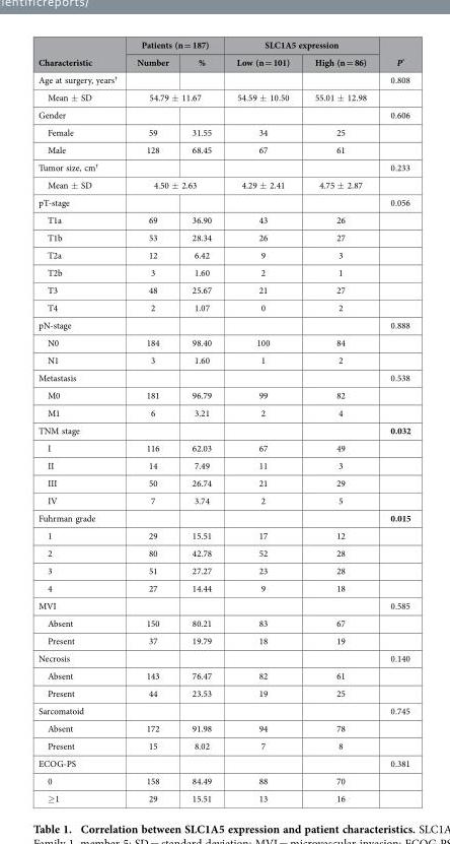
<table><thead><tr><td rowspan="2">Characteristic</td><td colspan="2">Patients (n = 187)</td><td colspan="2">SLC1A5 expression</td><td rowspan="2">P*</td></tr><tr><td>Number</td><td>%</td><td>Low (n = 101)</td><td>High (n = 86)</td></tr></thead><tbody><tr><td>Age at surgery, years†</td><td></td><td></td><td></td><td></td><td>0.808</td></tr><tr><td>Mean ± SD</td><td colspan="2">54.79 ± 11.67</td><td>54.59 ± 10.50</td><td>55.01 ± 12.98</td><td></td></tr><tr><td>Gender</td><td></td><td></td><td></td><td></td><td>0.606</td></tr><tr><td>Female</td><td>59</td><td>31.55</td><td>34</td><td>25</td><td></td></tr><tr><td>Male</td><td>128</td><td>68.45</td><td>67</td><td>61</td><td></td></tr><tr><td>Tumor size, cm†</td><td></td><td></td><td></td><td></td><td>0.233</td></tr><tr><td>Mean ± SD</td><td colspan="2">4.50 ± 2.63</td><td>4.29 ± 2.41</td><td>4.75 ± 2.87</td><td></td></tr><tr><td>pT-stage</td><td></td><td></td><td></td><td></td><td>0.056</td></tr><tr><td>T1a</td><td>69</td><td>36.90</td><td>43</td><td>26</td><td></td></tr><tr><td>T1b</td><td>53</td><td>28.34</td><td>26</td><td>27</td><td></td></tr><tr><td>T2a</td><td>12</td><td>6.42</td><td>9</td><td>3</td><td></td></tr><tr><td>T2b</td><td>3</td><td>1.60</td><td>2</td><td>1</td><td></td></tr><tr><td>T3</td><td>48</td><td>25.67</td><td>21</td><td>27</td><td></td></tr><tr><td>T4</td><td>2</td><td>1.07</td><td>0</td><td>2</td><td></td></tr><tr><td>pN-stage</td><td></td><td></td><td></td><td></td><td>0.888</td></tr><tr><td>N0</td><td>184</td><td>98.40</td><td>100</td><td>84</td><td></td></tr><tr><td>N1</td><td>3</td><td>1.60</td><td>1</td><td>2</td><td></td></tr><tr><td>Metastasis</td><td></td><td></td><td></td><td></td><td>0.538</td></tr><tr><td>M0</td><td>181</td><td>96.79</td><td>99</td><td>82</td><td></td></tr><tr><td>M1</td><td>6</td><td>3.21</td><td>2</td><td>4</td><td></td></tr><tr><td>TNM stage</td><td></td><td></td><td></td><td></td><td>0.032</td></tr><tr><td>I</td><td>116</td><td>62.03</td><td>67</td><td>49</td><td></td></tr><tr><td>II</td><td>14</td><td>7.49</td><td>11</td><td>3</td><td></td></tr><tr><td>III</td><td>50</td><td>26.74</td><td>21</td><td>29</td><td></td></tr><tr><td>IV</td><td>7</td><td>3.74</td><td>2</td><td>5</td><td></td></tr><tr><td>Fuhrman grade</td><td></td><td></td><td></td><td></td><td>0.015</td></tr><tr><td>1</td><td>29</td><td>15.51</td><td>17</td><td>12</td><td></td></tr><tr><td>2</td><td>80</td><td>42.78</td><td>52</td><td>28</td><td></td></tr><tr><td>3</td><td>51</td><td>27.27</td><td>23</td><td>28</td><td></td></tr><tr><td>4</td><td>27</td><td>14.44</td><td>9</td><td>18</td><td></td></tr><tr><td>MVI</td><td></td><td></td><td></td><td></td><td>0.585</td></tr><tr><td>Absent</td><td>150</td><td>80.21</td><td>83</td><td>67</td><td></td></tr><tr><td>Present</td><td>37</td><td>19.79</td><td>18</td><td>19</td><td></td></tr><tr><td>Necrosis</td><td></td><td></td><td></td><td></td><td>0.140</td></tr><tr><td>Absent</td><td>143</td><td>76.47</td><td>82</td><td>61</td><td></td></tr><tr><td>Present</td><td>44</td><td>23.53</td><td>19</td><td>25</td><td></td></tr><tr><td>Sarcomatoid</td><td></td><td></td><td></td><td></td><td>0.745</td></tr><tr><td>Absent</td><td>172</td><td>91.98</td><td>94</td><td>78</td><td></td></tr><tr><td>Present</td><td>15</td><td>8.02</td><td>7</td><td>8</td><td></td></tr><tr><td>ECOG-PS</td><td></td><td></td><td></td><td></td><td>0.381</td></tr><tr><td>0</td><td>158</td><td>84.49</td><td>88</td><td>70</td><td></td></tr><tr><td>≥ 1</td><td>29</td><td>15.51</td><td>13</td><td>16</td><td></td></tr></tbody></table>